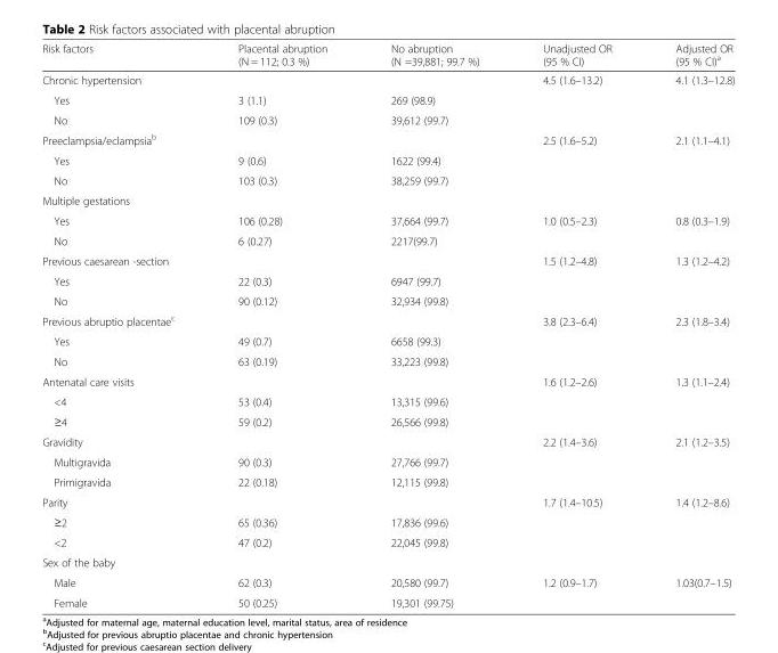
<table><thead><tr><td>Risk factors</td><td>Placental abruption (N = 112; 0.3 %)</td><td>No abruption (N =39,881; 99.7 %)</td><td>Unadjusted OR (95 % CI)</td><td>Adjusted OR (95 % CI)<sup>a</sup></td></tr></thead><tbody><tr><td>Chronic hypertension</td><td></td><td></td><td>4.5 (1.6–13.2)</td><td>4.1 (1.3–12.8)</td></tr><tr><td>Yes</td><td>3 (1.1)</td><td>269 (98.9)</td><td></td><td></td></tr><tr><td>No</td><td>109 (0.3)</td><td>39,612 (99.7)</td><td></td><td></td></tr><tr><td>Preeclampsia/eclampsia<sup>b</sup></td><td></td><td></td><td>2.5 (1.6–5.2)</td><td>2.1 (1.1–4.1)</td></tr><tr><td>Yes</td><td>9 (0.6)</td><td>1622 (99.4)</td><td></td><td></td></tr><tr><td>No</td><td>103 (0.3)</td><td>38,259 (99.7)</td><td></td><td></td></tr><tr><td colspan="5">Multiple gestations</td></tr><tr><td>Yes</td><td>106 (0.28)</td><td>37,664 (99.7)</td><td>1.0 (0.5–2.3)</td><td>0.8 (0.3–1.9)</td></tr><tr><td>No</td><td>6 (0.27)</td><td>2217(99.7)</td><td></td><td></td></tr><tr><td>Previous caesarean -section</td><td></td><td></td><td>1.5 (1.2–4.8)</td><td>1.3 (1.2–4.2)</td></tr><tr><td>Yes</td><td>22 (0.3)</td><td>6947 (99.7)</td><td></td><td></td></tr><tr><td>No</td><td>90 (0.12)</td><td>32,934 (99.8)</td><td></td><td></td></tr><tr><td>Previous abruptio placentae<sup>c</sup></td><td></td><td></td><td>3.8 (2.3–6.4)</td><td>2.3 (1.8–3.4)</td></tr><tr><td>Yes</td><td>49 (0.7)</td><td>6658 (99.3)</td><td></td><td></td></tr><tr><td>No</td><td>63 (0.19)</td><td>33,223 (99.8)</td><td></td><td></td></tr><tr><td>Antenatal care visits</td><td></td><td></td><td>1.6 (1.2–2.6)</td><td>1.3 (1.1–2.4)</td></tr><tr><td>&lt;4</td><td>53 (0.4)</td><td>13,315 (99.6)</td><td></td><td></td></tr><tr><td>≥4</td><td>59 (0.2)</td><td>26,566 (99.8)</td><td></td><td></td></tr><tr><td>Gravidity</td><td></td><td></td><td>2.2 (1.4–3.6)</td><td>2.1 (1.2–3.5)</td></tr><tr><td>Multigravida</td><td>90 (0.3)</td><td>27,766 (99.7)</td><td></td><td></td></tr><tr><td>Primigravida</td><td>22 (0.18)</td><td>12,115 (99.8)</td><td></td><td></td></tr><tr><td>Parity</td><td></td><td></td><td>1.7 (1.4–10.5)</td><td>1.4 (1.2–8.6)</td></tr><tr><td>≥2</td><td>65 (0.36)</td><td>17,836 (99.6)</td><td></td><td></td></tr><tr><td>&lt;2</td><td>47 (0.2)</td><td>22,045 (99.8)</td><td></td><td></td></tr><tr><td colspan="5">Sex of the baby</td></tr><tr><td>Male</td><td>62 (0.3)</td><td>20,580 (99.7)</td><td>1.2 (0.9–1.7)</td><td>1.03(0.7–1.5)</td></tr><tr><td>Female</td><td>50 (0.25)</td><td>19,301 (99.75)</td><td></td><td></td></tr></tbody></table>